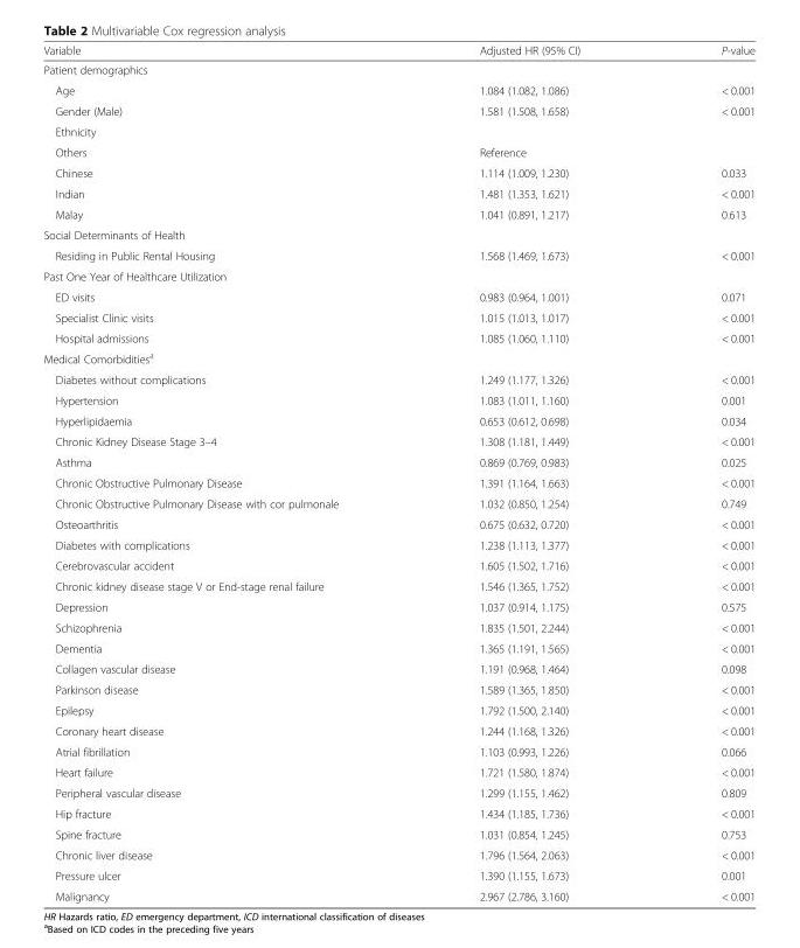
<table><thead><tr><td>Variable</td><td>Adjusted HR (95% CI)</td><td>P-value</td></tr></thead><tbody><tr><td colspan="3">Patient demographics</td></tr><tr><td>Age</td><td>1.084 (1.082, 1.086)</td><td>&lt; 0.001</td></tr><tr><td>Gender (Male)</td><td>1.581 (1.508, 1.658)</td><td>&lt; 0.001</td></tr><tr><td colspan="3">Ethnicity</td></tr><tr><td>Others</td><td>Reference</td><td></td></tr><tr><td>Chinese</td><td>1.114 (1.009, 1.230)</td><td>0.033</td></tr><tr><td>Indian</td><td>1.481 (1.353, 1.621)</td><td>&lt; 0.001</td></tr><tr><td>Malay</td><td>1.041 (0.891, 1.217)</td><td>0.613</td></tr><tr><td colspan="3">Social Determinants of Health</td></tr><tr><td>Residing in Public Rental Housing</td><td>1.568 (1.469, 1.673)</td><td>&lt; 0.001</td></tr><tr><td colspan="3">Past One Year of Healthcare Utilization</td></tr><tr><td>ED visits</td><td>0.983 (0.964, 1.001)</td><td>0.071</td></tr><tr><td>Specialist Clinic visits</td><td>1.015 (1.013, 1.017)</td><td>&lt; 0.001</td></tr><tr><td>Hospital admissions</td><td>1.085 (1.060, 1.110)</td><td>&lt; 0.001</td></tr><tr><td colspan="3">Medical Comorbidities<sup>a</sup></td></tr><tr><td>Diabetes without complications</td><td>1.249 (1.177, 1.326)</td><td>&lt; 0.001</td></tr><tr><td>Hypertension</td><td>1.083 (1.011, 1.160)</td><td>0.001</td></tr><tr><td>Hyperlipidaemia</td><td>0.653 (0.612, 0.698)</td><td>0.034</td></tr><tr><td>Chronic Kidney Disease Stage 3–4</td><td>1.308 (1.181, 1.449)</td><td>&lt; 0.001</td></tr><tr><td>Asthma</td><td>0.869 (0.769, 0.983)</td><td>0.025</td></tr><tr><td>Chronic Obstructive Pulmonary Disease</td><td>1.391 (1.164, 1.663)</td><td>&lt; 0.001</td></tr><tr><td>Chronic Obstructive Pulmonary Disease with cor pulmonale</td><td>1.032 (0.850, 1.254)</td><td>0.749</td></tr><tr><td>Osteoarthritis</td><td>0.675 (0.632, 0.720)</td><td>&lt; 0.001</td></tr><tr><td>Diabetes with complications</td><td>1.238 (1.113, 1.377)</td><td>&lt; 0.001</td></tr><tr><td>Cerebrovascular accident</td><td>1.605 (1.502, 1.716)</td><td>&lt; 0.001</td></tr><tr><td>Chronic kidney disease stage V or End-stage renal failure</td><td>1.546 (1.365, 1.752)</td><td>&lt; 0.001</td></tr><tr><td>Depression</td><td>1.037 (0.914, 1.175)</td><td>0.575</td></tr><tr><td>Schizophrenia</td><td>1.835 (1.501, 2.244)</td><td>&lt; 0.001</td></tr><tr><td>Dementia</td><td>1.365 (1.191, 1.565)</td><td>&lt; 0.001</td></tr><tr><td>Collagen vascular disease</td><td>1.191 (0.968, 1.464)</td><td>0.098</td></tr><tr><td>Parkinson disease</td><td>1.589 (1.365, 1.850)</td><td>&lt; 0.001</td></tr><tr><td>Epilepsy</td><td>1.792 (1.500, 2.140)</td><td>&lt; 0.001</td></tr><tr><td>Coronary heart disease</td><td>1.244 (1.168, 1.326)</td><td>&lt; 0.001</td></tr><tr><td>Atrial fibrillation</td><td>1.103 (0.993, 1.226)</td><td>0.066</td></tr><tr><td>Heart failure</td><td>1.721 (1.580, 1.874)</td><td>&lt; 0.001</td></tr><tr><td>Peripheral vascular disease</td><td>1.299 (1.155, 1.462)</td><td>0.809</td></tr><tr><td>Hip fracture</td><td>1.434 (1.185, 1.736)</td><td>&lt; 0.001</td></tr><tr><td>Spine fracture</td><td>1.031 (0.854, 1.245)</td><td>0.753</td></tr><tr><td>Chronic liver disease</td><td>1.796 (1.564, 2.063)</td><td>&lt; 0.001</td></tr><tr><td>Pressure ulcer</td><td>1.390 (1.155, 1.673)</td><td>0.001</td></tr><tr><td>Malignancy</td><td>2.967 (2.786, 3.160)</td><td>&lt; 0.001</td></tr></tbody></table>